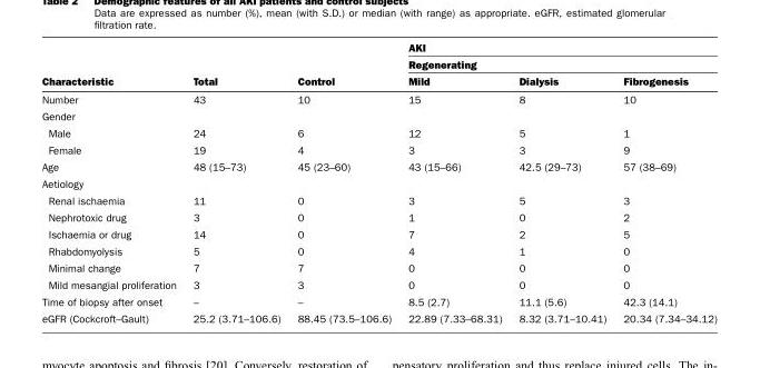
<table><thead><tr><td rowspan="3">Characteristic</td><td rowspan="3">Total</td><td rowspan="3">Control</td><td rowspan="2" colspan="3">AKI Regenerating</td></tr><tr></tr><tr><td>Mild</td><td>Dialysis</td><td>Fibrogenesis</td></tr></thead><tbody><tr><td>Number</td><td>43</td><td>10</td><td>15</td><td>8</td><td>10</td></tr><tr><td colspan="6">Gender</td></tr><tr><td>Male</td><td>24</td><td>6</td><td>12</td><td>5</td><td>1</td></tr><tr><td>Female</td><td>19</td><td>4</td><td>3</td><td>3</td><td>9</td></tr><tr><td>Age</td><td>48 (15–73)</td><td>45 (23–60)</td><td>43 (15–66)</td><td>42.5 (29–73)</td><td>57 (38–69)</td></tr><tr><td colspan="6">Aetiology</td></tr><tr><td>Renal ischaemia</td><td>11</td><td>0</td><td>3</td><td>5</td><td>3</td></tr><tr><td>Nephrotoxic drug</td><td>3</td><td>0</td><td>1</td><td>0</td><td>2</td></tr><tr><td>Ischaemia or drug</td><td>14</td><td>0</td><td>7</td><td>2</td><td>5</td></tr><tr><td>Rhabdomyolysis</td><td>5</td><td>0</td><td>4</td><td>1</td><td>0</td></tr><tr><td>Minimal change</td><td>7</td><td>7</td><td>0</td><td>0</td><td>0</td></tr><tr><td>Mild mesangial proliferation</td><td>3</td><td>3</td><td>0</td><td>0</td><td>0</td></tr><tr><td>Time of biopsy after onset</td><td>–</td><td>–</td><td>8.5 (2.7)</td><td>11.1 (5.6)</td><td>42.3 (14.1)</td></tr><tr><td>eGFR (Cockcroft–Gault)</td><td>25.2 (3.71–106.6)</td><td>88.45 (73.5–106.6)</td><td>22.89 (7.33–68.31)</td><td>8.32 (3.71–10.41)</td><td>20.34 (7.34–34.12)</td></tr></tbody></table>